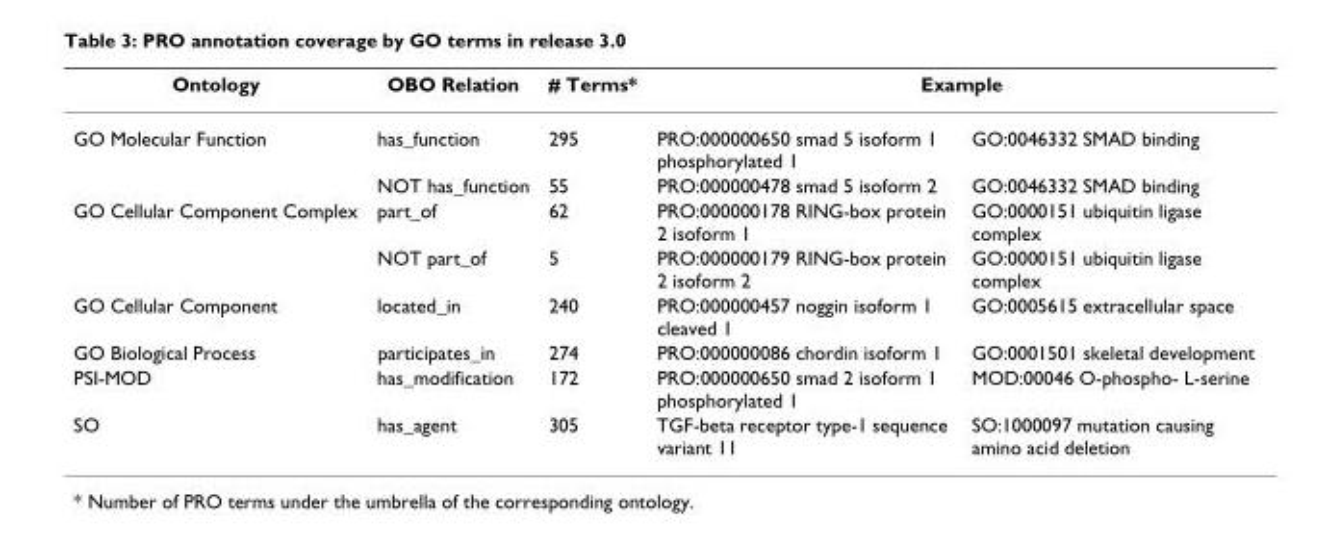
<table><thead><tr><td rowspan="2">Ontology GO Molecular Function</td><td rowspan="2">OBO Relation has_function</td><td rowspan="2"># Terms* 295</td><td colspan="2">Example</td></tr><tr><td>PRO:000000650 smad 5 isoform 1 phosphorylated 1</td><td>GO:0046332 SMAD binding</td></tr></thead><tbody><tr><td></td><td>NOT has_function</td><td>55</td><td>PRO:000000478 smad 5 isoform 2</td><td>GO:0046332 SMAD binding</td></tr><tr><td rowspan="2">GO Cellular Component Complex</td><td>part_of</td><td>62</td><td>PRO:000000178 RING-box protein 2 isoform 1</td><td>GO:0000151 ubiquitin ligase complex</td></tr><tr><td>NOT part_of</td><td>5</td><td>PRO:000000179 RING-box protein 2 isoform 2</td><td>GO:0000151 ubiquitin ligase complex</td></tr><tr><td>GO Cellular Component</td><td>located_in</td><td>240</td><td>PRO:000000457 noggin isoform 1 cleaved 1</td><td>GO:0005615 extracellular space</td></tr><tr><td>GO Biological Process</td><td>participates_in</td><td>274</td><td>PRO:000000086 chordin isoform 1</td><td>GO:0001501 skeletal development</td></tr><tr><td>PSI-MOD</td><td>has_modification</td><td>172</td><td>PRO:000000650 smad 2 isoform 1 phosphorylated 1</td><td>MOD:00046 O-phospho- L-serine</td></tr><tr><td>SO</td><td>has_agent</td><td>305</td><td>TGF-beta receptor type-1 sequence variant 11</td><td>SO:1000097 mutation causing amino acid deletion</td></tr></tbody></table>